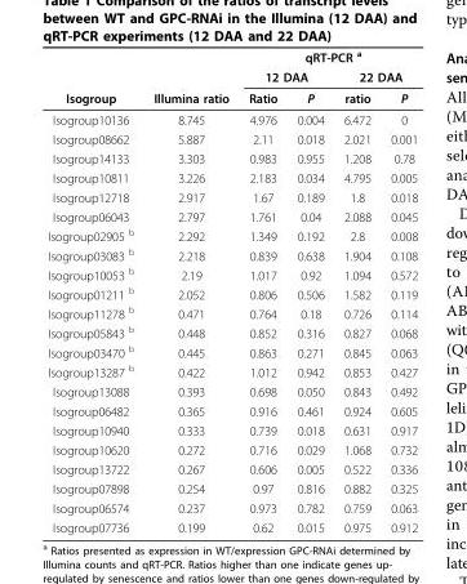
<table><thead><tr><td rowspan="3">Isogroup</td><td rowspan="3">Illumina ratio</td><td colspan="4">qRT-PCR <sup>a</sup></td></tr><tr><td colspan="2">12 DAA</td><td colspan="2">22 DAA</td></tr><tr><td>Ratio</td><td>P</td><td>ratio</td><td>P</td></tr></thead><tbody><tr><td>Isogroup10136</td><td>8.745</td><td>4.976</td><td>0.004</td><td>6.472</td><td>0</td></tr><tr><td>Isogroup08662</td><td>5.887</td><td>2.11</td><td>0.018</td><td>2.021</td><td>0.001</td></tr><tr><td>Isogroup14133</td><td>3.303</td><td>0.983</td><td>0.955</td><td>1.208</td><td>0.78</td></tr><tr><td>Isogroup10811</td><td>3.226</td><td>2.183</td><td>0.034</td><td>4.795</td><td>0.005</td></tr><tr><td>Isogroup12718</td><td>2.917</td><td>1.67</td><td>0.189</td><td>1.8</td><td>0.018</td></tr><tr><td>Isogroup06043</td><td>2.797</td><td>1.761</td><td>0.04</td><td>2.088</td><td>0.045</td></tr><tr><td>Isogroup02905 <sup>b</sup></td><td>2.292</td><td>1.349</td><td>0.192</td><td>2.8</td><td>0.008</td></tr><tr><td>Isogroup03083 <sup>b</sup></td><td>2.218</td><td>0.839</td><td>0.638</td><td>1.904</td><td>0.108</td></tr><tr><td>Isogroup10053 <sup>b</sup></td><td>2.19</td><td>1.017</td><td>0.92</td><td>1.094</td><td>0.572</td></tr><tr><td>Isogroup01211 <sup>b</sup></td><td>2.052</td><td>0.806</td><td>0.506</td><td>1.582</td><td>0.119</td></tr><tr><td>Isogroup11278 <sup>b</sup></td><td>0.471</td><td>0.764</td><td>0.18</td><td>0.726</td><td>0.114</td></tr><tr><td>Isogroup05843 <sup>b</sup></td><td>0.448</td><td>0.852</td><td>0.316</td><td>0.827</td><td>0.068</td></tr><tr><td>Isogroup03470 <sup>b</sup></td><td>0.445</td><td>0.863</td><td>0.271</td><td>0.845</td><td>0.063</td></tr><tr><td>Isogroup13287 <sup>b</sup></td><td>0.422</td><td>1.012</td><td>0.942</td><td>0.853</td><td>0.427</td></tr><tr><td>Isogroup13088</td><td>0.393</td><td>0.698</td><td>0.050</td><td>0.843</td><td>0.492</td></tr><tr><td>Isogroup06482</td><td>0.365</td><td>0.916</td><td>0.461</td><td>0.924</td><td>0.605</td></tr><tr><td>Isogroup10940</td><td>0.333</td><td>0.739</td><td>0.018</td><td>0.631</td><td>0.917</td></tr><tr><td>Isogroup10620</td><td>0.272</td><td>0.716</td><td>0.029</td><td>1.068</td><td>0.732</td></tr><tr><td>Isogroup13722</td><td>0.267</td><td>0.606</td><td>0.005</td><td>0.522</td><td>0.336</td></tr><tr><td>Isogroup07898</td><td>0.254</td><td>0.97</td><td>0.816</td><td>0.882</td><td>0.325</td></tr><tr><td>Isogroup06574</td><td>0.237</td><td>0.973</td><td>0.782</td><td>0.759</td><td>0.063</td></tr><tr><td>Isogroup07736</td><td>0.199</td><td>0.62</td><td>0.015</td><td>0.975</td><td>0.912</td></tr></tbody></table>